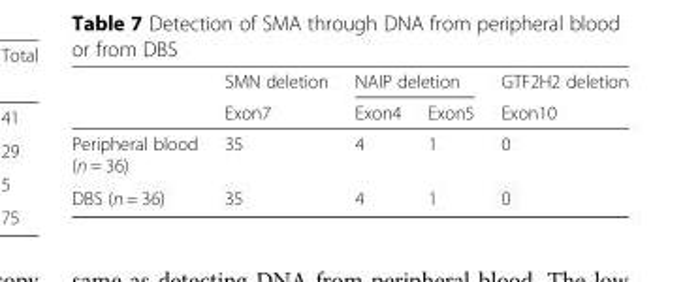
<table><thead><tr><td rowspan="2"></td><td rowspan="2">SMN deletion Exon7</td><td colspan="2">NAIP deletion</td><td rowspan="2">GTF2H2 deletion Exon10</td></tr><tr><td>Exon4</td><td>Exon5</td></tr></thead><tbody><tr><td>Peripheral blood (n = 36)</td><td>35</td><td>4</td><td>1</td><td>0</td></tr><tr><td>DBS (n = 36)</td><td>35</td><td>4</td><td>1</td><td>0</td></tr></tbody></table>